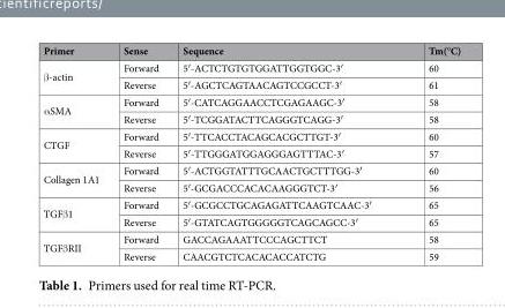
<table><thead><tr><td>Primer</td><td>Sense</td><td>Sequence</td><td>Tm(°C)</td></tr></thead><tbody><tr><td rowspan="2">β-actin</td><td>Forward</td><td>5′-ACTCTGTGTGGATTGGTGGC-3′</td><td>60</td></tr><tr><td>Reverse</td><td>5′-AGCTCAGTAACAGTCCGCCT-3′</td><td>61</td></tr><tr><td rowspan="2">αSMA</td><td>Forward</td><td>5′-CATCAGGAACCTCGAGAAGC-3′</td><td>58</td></tr><tr><td>Reverse</td><td>5′-TCGGATACTTCAGGGTCAGG-3′</td><td>58</td></tr><tr><td rowspan="2">CTGF</td><td>Forward</td><td>5′-TTCACCTACAGCACGCTTGT-3′</td><td>60</td></tr><tr><td>Reverse</td><td>5′-TTGGGATGGAGGGAGTTTAC-3′</td><td>57</td></tr><tr><td rowspan="2">Collagen 1A1</td><td>Forward</td><td>5′-ACTGGTATTTGCAACTGCTTTGG-3′</td><td>60</td></tr><tr><td>Reverse</td><td>5′-GCGACCCACACAAGGGTCT-3′</td><td>56</td></tr><tr><td rowspan="2">TGFβ1</td><td>Forward</td><td>5′-GCGCCTGCAGAGATTCAAGTCAAC-3′</td><td>65</td></tr><tr><td>Reverse</td><td>5′-GTATCAGTGGGGGTCAGCAGCC-3′</td><td>65</td></tr><tr><td rowspan="2">TGFβRII</td><td>Forward</td><td>GACCAGAAATTCCCAGCTTCT</td><td>58</td></tr><tr><td>Reverse</td><td>CAACGTCTCACACACCATCTG</td><td>59</td></tr></tbody></table>